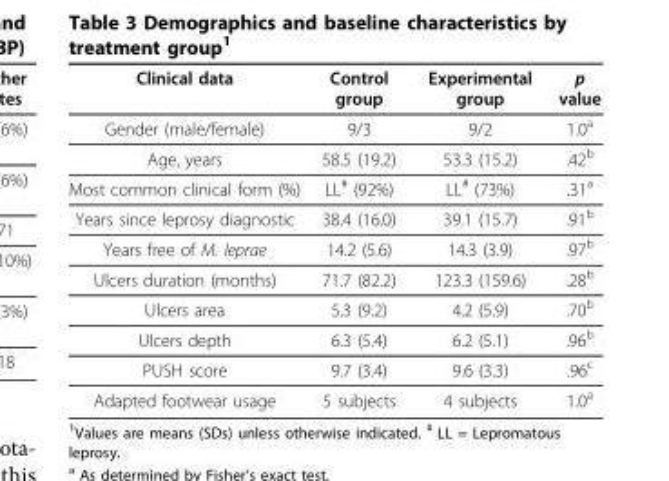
<table><thead><tr><td>Clinical data</td><td>Control group</td><td>Experimental group</td><td>p value</td></tr></thead><tbody><tr><td>Gender (male/female)</td><td>9/3</td><td>9/2</td><td>1.0<sup>a</sup></td></tr><tr><td>Age, years</td><td>58.5 (19.2)</td><td>53.3 (15.2)</td><td>.42<sup>b</sup></td></tr><tr><td>Most common clinical form (%)</td><td>LL<sup>#</sup> (92%)</td><td>LL<sup>#</sup> (73%)</td><td>.31<sup>a</sup></td></tr><tr><td>Years since leprosy diagnostic</td><td>38.4 (16.0)</td><td>39.1 (15.7)</td><td>.91<sup>b</sup></td></tr><tr><td>Years free of M. leprae</td><td>14.2 (5.6)</td><td>14.3 (3.9)</td><td>.97<sup>b</sup></td></tr><tr><td>Ulcers duration (months)</td><td>71.7 (82.2)</td><td>123.3 (159.6)</td><td>.28<sup>b</sup></td></tr><tr><td>Ulcers area</td><td>5.3 (9.2)</td><td>4.2 (5.9)</td><td>.70<sup>b</sup></td></tr><tr><td>Ulcers depth</td><td>6.3 (5.4)</td><td>6.2 (5.1)</td><td>.96<sup>b</sup></td></tr><tr><td>PUSH score</td><td>9.7 (3.4)</td><td>9.6 (3.3)</td><td>.96<sup>c</sup></td></tr><tr><td>Adapted footwear usage</td><td>5 subjects</td><td>4 subjects</td><td>1.0<sup>a</sup></td></tr></tbody></table>